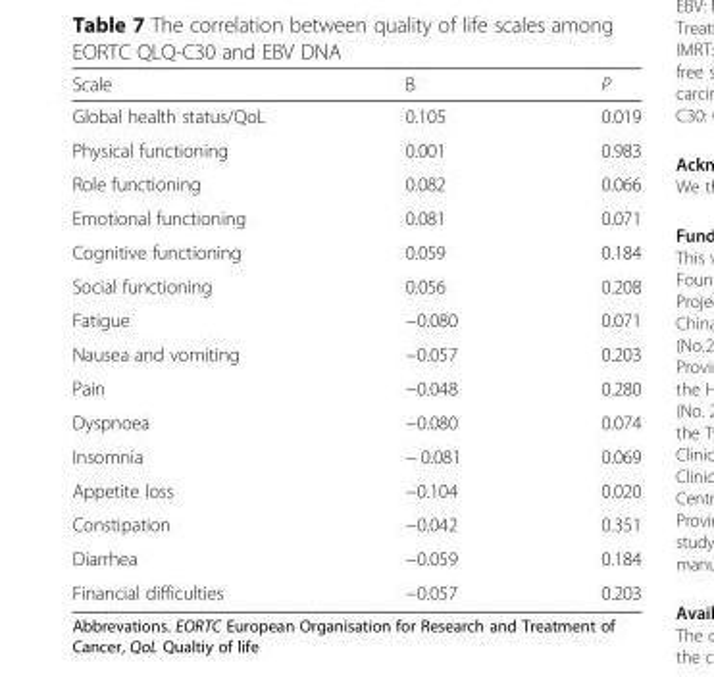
<table><thead><tr><td>Scale</td><td>Β</td><td>P</td></tr></thead><tbody><tr><td>Global health status/QoL</td><td>0.105</td><td>0.019</td></tr><tr><td>Physical functioning</td><td>0.001</td><td>0.983</td></tr><tr><td>Role functioning</td><td>0.082</td><td>0.066</td></tr><tr><td>Emotional functioning</td><td>0.081</td><td>0.071</td></tr><tr><td>Cognitive functioning</td><td>0.059</td><td>0.184</td></tr><tr><td>Social functioning</td><td>0.056</td><td>0.208</td></tr><tr><td>Fatigue</td><td>−0.080</td><td>0.071</td></tr><tr><td>Nausea and vomiting</td><td>−0.057</td><td>0.203</td></tr><tr><td>Pain</td><td>−0.048</td><td>0.280</td></tr><tr><td>Dyspnoea</td><td>−0.080</td><td>0.074</td></tr><tr><td>Insomnia</td><td>− 0.081</td><td>0.069</td></tr><tr><td>Appetite loss</td><td>−0.104</td><td>0.020</td></tr><tr><td>Constipation</td><td>−0.042</td><td>0.351</td></tr><tr><td>Diarrhea</td><td>−0.059</td><td>0.184</td></tr><tr><td>Financial difficulties</td><td>−0.057</td><td>0.203</td></tr></tbody></table>